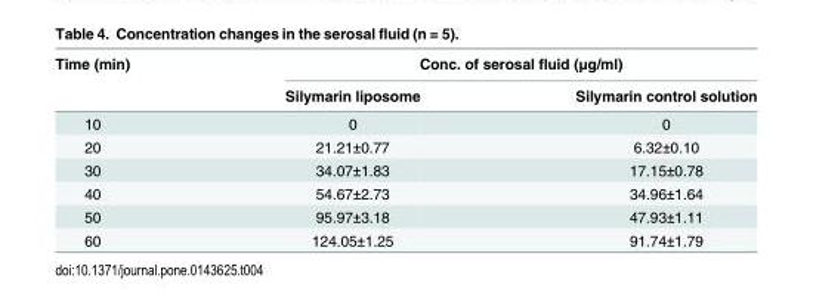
<table><thead><tr><td rowspan="2">Time (min)</td><td colspan="2">Conc. of serosal fluid (μg/ml)</td></tr><tr><td>Silymarin liposome</td><td>Silymarin control solution</td></tr></thead><tbody><tr><td>10</td><td>0</td><td>0</td></tr><tr><td>20</td><td>21.21±0.77</td><td>6.32±0.10</td></tr><tr><td>30</td><td>34.07±1.83</td><td>17.15±0.78</td></tr><tr><td>40</td><td>54.67±2.73</td><td>34.96±1.64</td></tr><tr><td>50</td><td>95.97±3.18</td><td>47.93±1.11</td></tr><tr><td>60</td><td>124.05±1.25</td><td>91.74±1.79</td></tr></tbody></table>